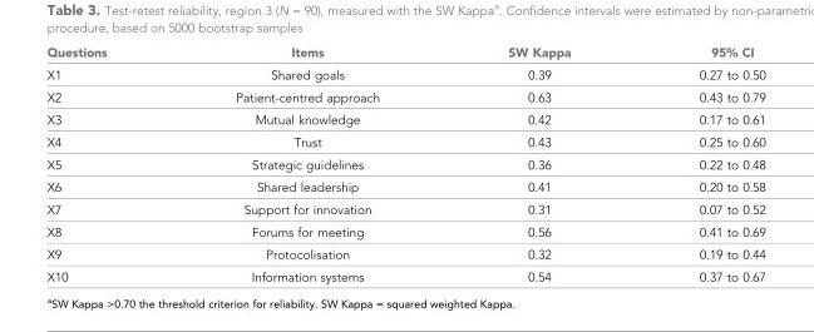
<table><thead><tr><td>Questions</td><td>Items</td><td>SW Kappa</td><td>95% CI</td></tr></thead><tbody><tr><td>X1</td><td>Shared goals</td><td>0.39</td><td>0.27 to 0.50</td></tr><tr><td>X2</td><td>Patient-centred approach</td><td>0.63</td><td>0.43 to 0.79</td></tr><tr><td>X3</td><td>Mutual knowledge</td><td>0.42</td><td>0.17 to 0.61</td></tr><tr><td>X4</td><td>Trust</td><td>0.43</td><td>0.25 to 0.60</td></tr><tr><td>X5</td><td>Strategic guidelines</td><td>0.36</td><td>0.22 to 0.48</td></tr><tr><td>X6</td><td>Shared leadership</td><td>0.41</td><td>0.20 to 0.58</td></tr><tr><td>X7</td><td>Support for innovation</td><td>0.31</td><td>0.07 to 0.52</td></tr><tr><td>X8</td><td>Forums for meeting</td><td>0.56</td><td>0.41 to 0.69</td></tr><tr><td>X9</td><td>Protocolisation</td><td>0.32</td><td>0.19 to 0.44</td></tr><tr><td>X10</td><td>Information systems</td><td>0.54</td><td>0.37 to 0.67</td></tr></tbody></table>